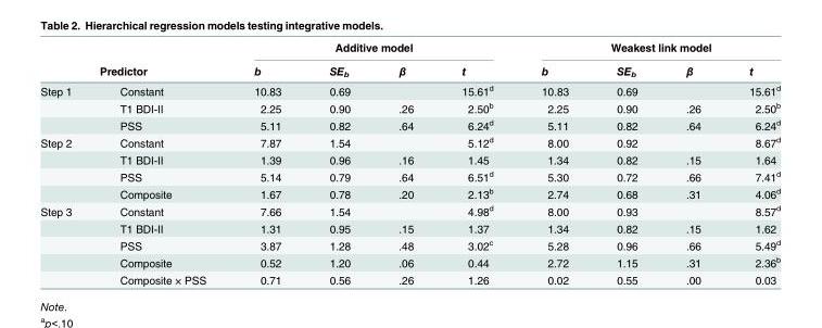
<table><thead><tr><td></td><td></td><td colspan="4">Additive model</td><td colspan="4">Weakest link model</td></tr><tr><td colspan="2">Predictor</td><td>b</td><td>SE<sub>b</sub></td><td>β</td><td>t</td><td>b</td><td>SE<sub>b</sub></td><td>β</td><td>t</td></tr></thead><tbody><tr><td rowspan="3">Step 1</td><td>Constant</td><td>10.83</td><td>0.69</td><td></td><td>15.61<sup>d</sup></td><td>10.83</td><td>0.69</td><td></td><td>15.61<sup>d</sup></td></tr><tr><td>T1 BDI-II</td><td>2.25</td><td>0.90</td><td>.26</td><td>2.50<sup>b</sup></td><td>2.25</td><td>0.90</td><td>.26</td><td>2.50<sup>b</sup></td></tr><tr><td>PSS</td><td>5.11</td><td>0.82</td><td>.64</td><td>6.24<sup>d</sup></td><td>5.11</td><td>0.82</td><td>.64</td><td>6.24<sup>d</sup></td></tr><tr><td rowspan="4">Step 2</td><td>Constant</td><td>7.87</td><td>1.54</td><td></td><td>5.12<sup>d</sup></td><td>8.00</td><td>0.92</td><td></td><td>8.67<sup>d</sup></td></tr><tr><td>T1 BDI-II</td><td>1.39</td><td>0.96</td><td>.16</td><td>1.45</td><td>1.34</td><td>0.82</td><td>.15</td><td>1.64</td></tr><tr><td>PSS</td><td>5.14</td><td>0.79</td><td>.64</td><td>6.51<sup>d</sup></td><td>5.30</td><td>0.72</td><td>.66</td><td>7.41<sup>d</sup></td></tr><tr><td>Composite</td><td>1.67</td><td>0.78</td><td>.20</td><td>2.13<sup>b</sup></td><td>2.74</td><td>0.68</td><td>.31</td><td>4.06<sup>d</sup></td></tr><tr><td rowspan="5">Step 3</td><td>Constant</td><td>7.66</td><td>1.54</td><td></td><td>4.98<sup>d</sup></td><td>8.00</td><td>0.93</td><td></td><td>8.57<sup>d</sup></td></tr><tr><td>T1 BDI-II</td><td>1.31</td><td>0.95</td><td>.15</td><td>1.37</td><td>1.34</td><td>0.82</td><td>.15</td><td>1.62</td></tr><tr><td>PSS</td><td>3.87</td><td>1.28</td><td>.48</td><td>3.02<sup>c</sup></td><td>5.28</td><td>0.96</td><td>.66</td><td>5.49<sup>d</sup></td></tr><tr><td>Composite</td><td>0.52</td><td>1.20</td><td>.06</td><td>0.44</td><td>2.72</td><td>1.15</td><td>.31</td><td>2.36<sup>b</sup></td></tr><tr><td>Composite × PSS</td><td>0.71</td><td>0.56</td><td>.26</td><td>1.26</td><td>0.02</td><td>0.55</td><td>.00</td><td>0.03</td></tr></tbody></table>